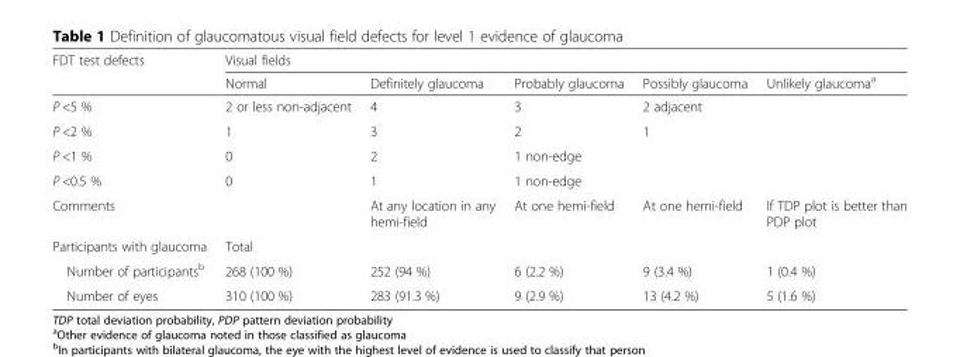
<table><thead><tr><td rowspan="2">FDT test defects</td><td colspan="5">Visual fields</td></tr><tr><td>Normal</td><td>Definitely glaucoma</td><td>Probably glaucoma</td><td>Possibly glaucoma</td><td>Unlikely glaucoma<sup>a</sup></td></tr></thead><tbody><tr><td>P &lt;5 %</td><td>2 or less non-adjacent</td><td>4</td><td>3</td><td>2 adjacent</td><td></td></tr><tr><td>P &lt;2 %</td><td>1</td><td>3</td><td>2</td><td>1</td><td></td></tr><tr><td>P &lt;1 %</td><td>0</td><td>2</td><td>1 non-edge</td><td></td><td></td></tr><tr><td>P &lt;0.5 %</td><td>0</td><td>1</td><td>1 non-edge</td><td></td><td></td></tr><tr><td>Comments</td><td></td><td>At any location in any hemi-field</td><td>At one hemi-field</td><td>At one hemi-field</td><td>If TDP plot is better than PDP plot</td></tr><tr><td>Participants with glaucoma</td><td>Total</td><td></td><td></td><td></td><td></td></tr><tr><td>Number of participants<sup>b</sup></td><td>268 (100 %)</td><td>252 (94 %)</td><td>6 (2.2 %)</td><td>9 (3.4 %)</td><td>1 (0.4 %)</td></tr><tr><td>Number of eyes</td><td>310 (100 %)</td><td>283 (91.3 %)</td><td>9 (2.9 %)</td><td>13 (4.2 %)</td><td>5 (1.6 %)</td></tr></tbody></table>